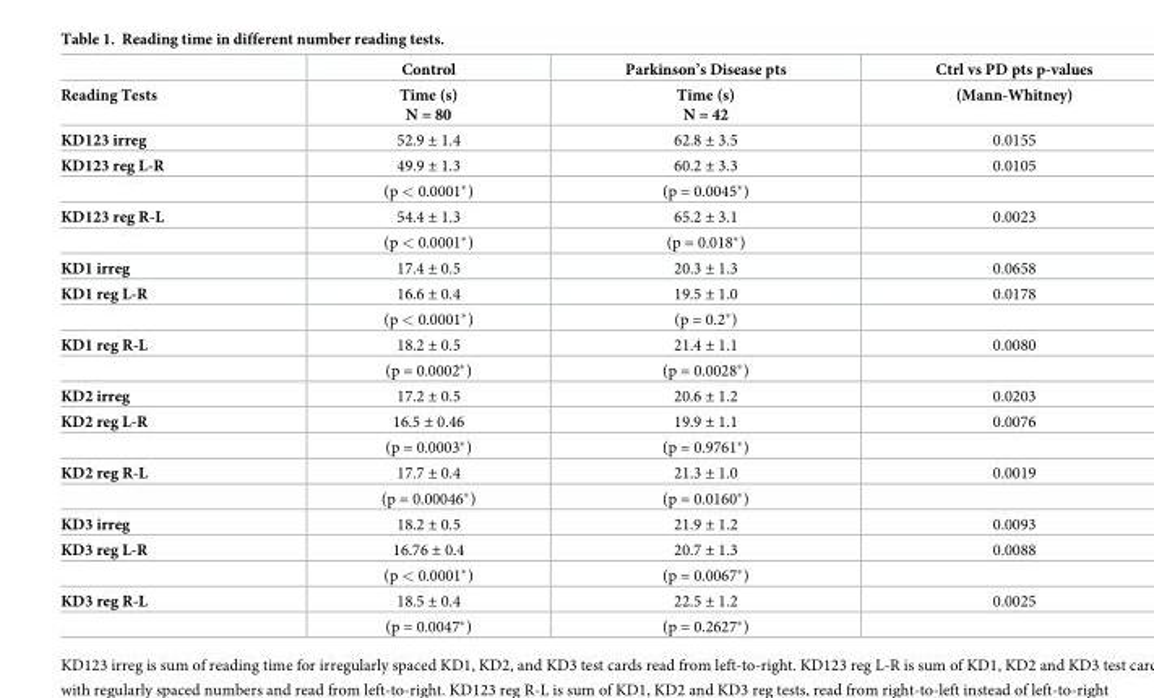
<table><thead><tr><td rowspan="2">Reading Tests</td><td rowspan="2">Control Time (s) N = 80</td><td rowspan="2">Parkinson’s Disease pts Time (s) N = 42</td><td rowspan="2">Ctrl vs PD pts p-values (Mann-Whitney)</td></tr><tr></tr></thead><tbody><tr><td>KD123 irreg</td><td>52.9 ± 1.4</td><td>62.8 ± 3.5</td><td>0.0155</td></tr><tr><td rowspan="2">KD123 reg L-R</td><td>49.9 ± 1.3</td><td>60.2 ± 3.3</td><td>0.0105</td></tr><tr><td>(p &lt; 0.0001*)</td><td>(p = 0.0045*)</td><td></td></tr><tr><td rowspan="2">KD123 reg R-L</td><td>54.4 ± 1.3</td><td>65.2 ± 3.1</td><td>0.0023</td></tr><tr><td>(p &lt; 0.0001*)</td><td>(p = 0.018*)</td><td></td></tr><tr><td>KD1 irreg</td><td>17.4 ± 0.5</td><td>20.3 ± 1.3</td><td>0.0658</td></tr><tr><td rowspan="2">KD1 reg L-R</td><td>16.6 ± 0.4</td><td>19.5 ± 1.0</td><td>0.0178</td></tr><tr><td>(p &lt; 0.0001*)</td><td>(p = 0.2*)</td><td></td></tr><tr><td rowspan="2">KD1 reg R-L</td><td>18.2 ± 0.5</td><td>21.4 ± 1.1</td><td>0.0080</td></tr><tr><td>(p = 0.0002*)</td><td>(p = 0.0028*)</td><td></td></tr><tr><td>KD2 irreg</td><td>17.2 ± 0.5</td><td>20.6 ± 1.2</td><td>0.0203</td></tr><tr><td rowspan="2">KD2 reg L-R</td><td>16.5 ± 0.46</td><td>19.9 ± 1.1</td><td>0.0076</td></tr><tr><td>(p = 0.0003*)</td><td>(p = 0.9761*)</td><td></td></tr><tr><td rowspan="2">KD2 reg R-L</td><td>17.7 ± 0.4</td><td>21.3 ± 1.0</td><td>0.0019</td></tr><tr><td>(p = 0.00046*)</td><td>(p = 0.0160*)</td><td></td></tr><tr><td>KD3 irreg</td><td>18.2 ± 0.5</td><td>21.9 ± 1.2</td><td>0.0093</td></tr><tr><td rowspan="2">KD3 reg L-R</td><td>16.76 ± 0.4</td><td>20.7 ± 1.3</td><td>0.0088</td></tr><tr><td>(p &lt; 0.0001*)</td><td>(p = 0.0067*)</td><td></td></tr><tr><td rowspan="2">KD3 reg R-L</td><td>18.5 ± 0.4</td><td>22.5 ± 1.2</td><td>0.0025</td></tr><tr><td>(p = 0.0047*)</td><td>(p = 0.2627*)</td><td></td></tr></tbody></table>